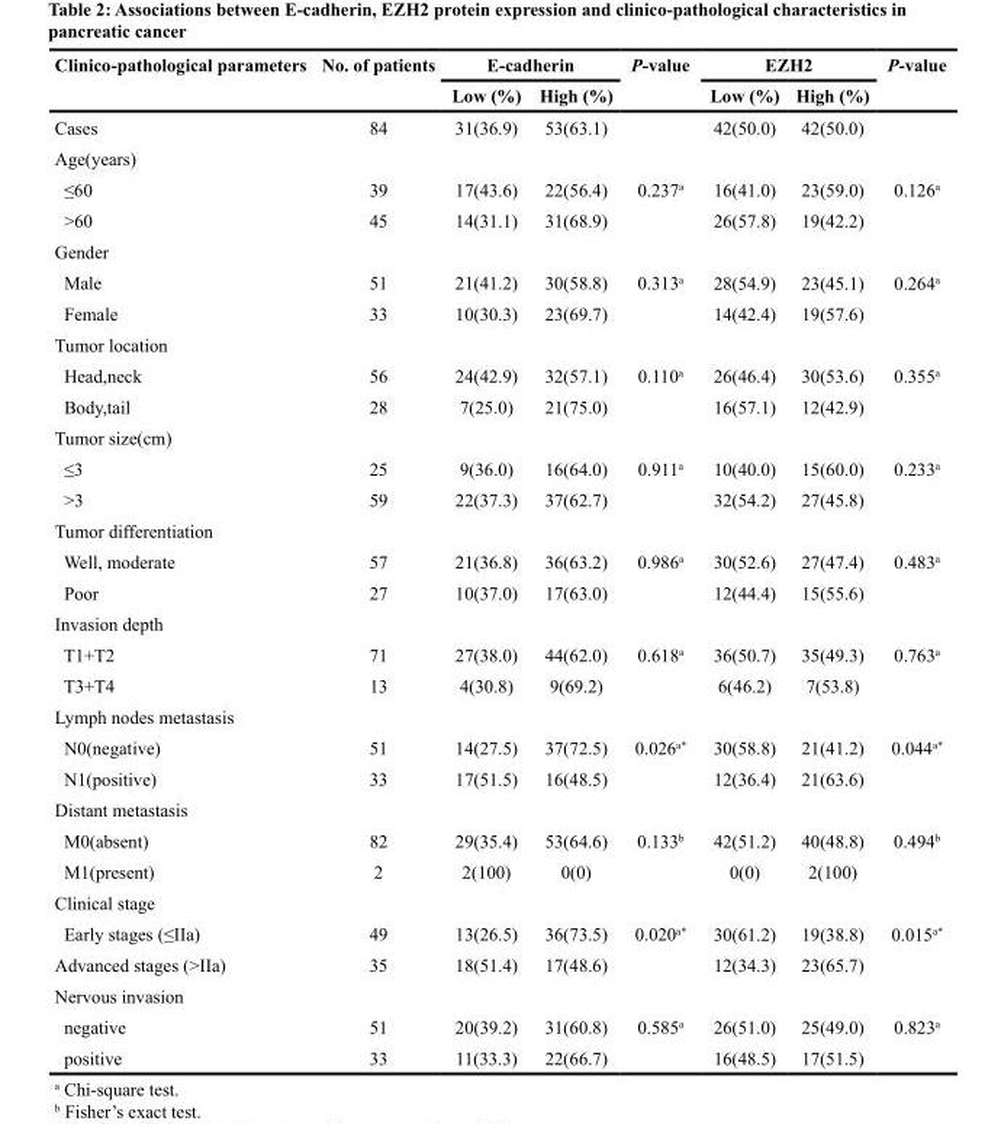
<table><thead><tr><td rowspan="2">Clinico-pathological parameters</td><td rowspan="2">No. of patients</td><td colspan="2">E-cadherin</td><td rowspan="2">P-value</td><td colspan="2">EZH2</td><td rowspan="2">P-value</td></tr><tr><td>Low (%)</td><td>High (%)</td><td>Low (%)</td><td>High (%)</td></tr></thead><tbody><tr><td>Cases</td><td>84</td><td>31(36.9)</td><td>53(63.1)</td><td></td><td>42(50.0)</td><td>42(50.0)</td><td></td></tr><tr><td colspan="8">Age(years)</td></tr><tr><td>≤60</td><td>39</td><td>17(43.6)</td><td>22(56.4)</td><td>0.237<sup>a</sup></td><td>16(41.0)</td><td>23(59.0)</td><td>0.126<sup>a</sup></td></tr><tr><td>&gt;60</td><td>45</td><td>14(31.1)</td><td>31(68.9)</td><td></td><td>26(57.8)</td><td>19(42.2)</td><td></td></tr><tr><td colspan="8">Gender</td></tr><tr><td>Male</td><td>51</td><td>21(41.2)</td><td>30(58.8)</td><td>0.313<sup>a</sup></td><td>28(54.9)</td><td>23(45.1)</td><td>0.264<sup>a</sup></td></tr><tr><td>Female</td><td>33</td><td>10(30.3)</td><td>23(69.7)</td><td></td><td>14(42.4)</td><td>19(57.6)</td><td></td></tr><tr><td colspan="8">Tumor location</td></tr><tr><td>Head,neck</td><td>56</td><td>24(42.9)</td><td>32(57.1)</td><td>0.110<sup>a</sup></td><td>26(46.4)</td><td>30(53.6)</td><td>0.355<sup>a</sup></td></tr><tr><td>Body,tail</td><td>28</td><td>7(25.0)</td><td>21(75.0)</td><td></td><td>16(57.1)</td><td>12(42.9)</td><td></td></tr><tr><td colspan="8">Tumor size(cm)</td></tr><tr><td>≤3</td><td>25</td><td>9(36.0)</td><td>16(64.0)</td><td>0.911<sup>a</sup></td><td>10(40.0)</td><td>15(60.0)</td><td>0.233<sup>a</sup></td></tr><tr><td>&gt;3</td><td>59</td><td>22(37.3)</td><td>37(62.7)</td><td></td><td>32(54.2)</td><td>27(45.8)</td><td></td></tr><tr><td colspan="8">Tumor differentiation</td></tr><tr><td>Well, moderate</td><td>57</td><td>21(36.8)</td><td>36(63.2)</td><td>0.986<sup>a</sup></td><td>30(52.6)</td><td>27(47.4)</td><td>0.483<sup>a</sup></td></tr><tr><td>Poor</td><td>27</td><td>10(37.0)</td><td>17(63.0)</td><td></td><td>12(44.4)</td><td>15(55.6)</td><td></td></tr><tr><td colspan="8">Invasion depth</td></tr><tr><td>T1+T2</td><td>71</td><td>27(38.0)</td><td>44(62.0)</td><td>0.618<sup>a</sup></td><td>36(50.7)</td><td>35(49.3)</td><td>0.763<sup>a</sup></td></tr><tr><td>T3+T4</td><td>13</td><td>4(30.8)</td><td>9(69.2)</td><td></td><td>6(46.2)</td><td>7(53.8)</td><td></td></tr><tr><td colspan="8">Lymph nodes metastasis</td></tr><tr><td>N0(negative)</td><td>51</td><td>14(27.5)</td><td>37(72.5)</td><td>0.026<sup>a</sup>*</td><td>30(58.8)</td><td>21(41.2)</td><td>0.044<sup>a</sup>*</td></tr><tr><td>N1(positive)</td><td>33</td><td>17(51.5)</td><td>16(48.5)</td><td></td><td>12(36.4)</td><td>21(63.6)</td><td></td></tr><tr><td colspan="8">Distant metastasis</td></tr><tr><td>M0(absent)</td><td>82</td><td>29(35.4)</td><td>53(64.6)</td><td>0.133<sup>b</sup></td><td>42(51.2)</td><td>40(48.8)</td><td>0.494<sup>b</sup></td></tr><tr><td>M1(present)</td><td>2</td><td>2(100)</td><td>0(0)</td><td></td><td>0(0)</td><td>2(100)</td><td></td></tr><tr><td colspan="8">Clinical stage</td></tr><tr><td>Early stages (≤IIa)</td><td>49</td><td>13(26.5)</td><td>36(73.5)</td><td>0.020<sup>a</sup>*</td><td>30(61.2)</td><td>19(38.8)</td><td>0.015<sup>a</sup>*</td></tr><tr><td>Advanced stages (&gt;IIa)</td><td>35</td><td>18(51.4)</td><td>17(48.6)</td><td></td><td>12(34.3)</td><td>23(65.7)</td><td></td></tr><tr><td colspan="8">Nervous invasion</td></tr><tr><td>negative</td><td>51</td><td>20(39.2)</td><td>31(60.8)</td><td>0.585<sup>a</sup></td><td>26(51.0)</td><td>25(49.0)</td><td>0.823<sup>a</sup></td></tr><tr><td>positive</td><td>33</td><td>11(33.3)</td><td>22(66.7)</td><td></td><td>16(48.5)</td><td>17(51.5)</td><td></td></tr></tbody></table>